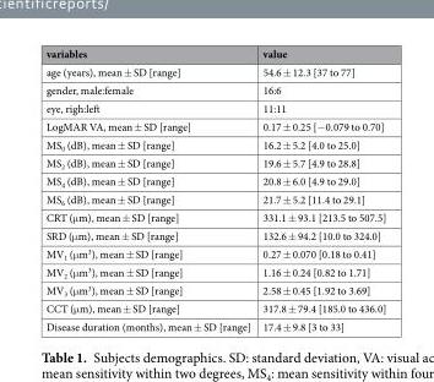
<table><thead><tr><td>variables</td><td>value</td></tr></thead><tbody><tr><td>age (years), mean ± SD [range]</td><td>54.6 ± 12.3 [37 to 77]</td></tr><tr><td>gender, male:female</td><td>16:6</td></tr><tr><td>eye, righ:left</td><td>11:11</td></tr><tr><td>LogMAR VA, mean ± SD [range]</td><td>0.17 ± 0.25 [−0.079 to 0.70]</td></tr><tr><td>MS<sub>0</sub> (dB), mean ± SD [range]</td><td>16.2 ± 5.2 [4.0 to 25.0]</td></tr><tr><td>MS<sub>2</sub> (dB), mean ± SD [range]</td><td>19.6 ± 5.7 [4.9 to 28.8]</td></tr><tr><td>MS<sub>4</sub> (dB), mean ± SD [range]</td><td>20.8 ± 6.0 [4.9 to 29.0]</td></tr><tr><td>MS<sub>6</sub> (dB), mean ± SD [range]</td><td>21.7 ± 5.2 [11.4 to 29.1]</td></tr><tr><td>CRT (μm), mean ± SD [range]</td><td>331.1 ± 93.1 [213.5 to 507.5]</td></tr><tr><td>SRD (μm), mean ± SD [range]</td><td>132.6 ± 94.2 [10.0 to 324.0]</td></tr><tr><td>MV<sub>1</sub> (μm<sup>3</sup>), mean ± SD [range]</td><td>0.27 ± 0.070 [0.18 to 0.41]</td></tr><tr><td>MV<sub>2</sub> (μm<sup>3</sup>), mean ± SD [range]</td><td>1.16 ± 0.24 [0.82 to 1.71]</td></tr><tr><td>MV<sub>3</sub> (μm<sup>3</sup>), mean ± SD [range]</td><td>2.58 ± 0.45 [1.92 to 3.69]</td></tr><tr><td>CCT (μm), mean ± SD [range]</td><td>317.8 ± 79.4 [185.0 to 436.0]</td></tr><tr><td>Disease duration (months), mean ± SD [range]</td><td>17.4 ± 9.8 [3 to 33]</td></tr></tbody></table>